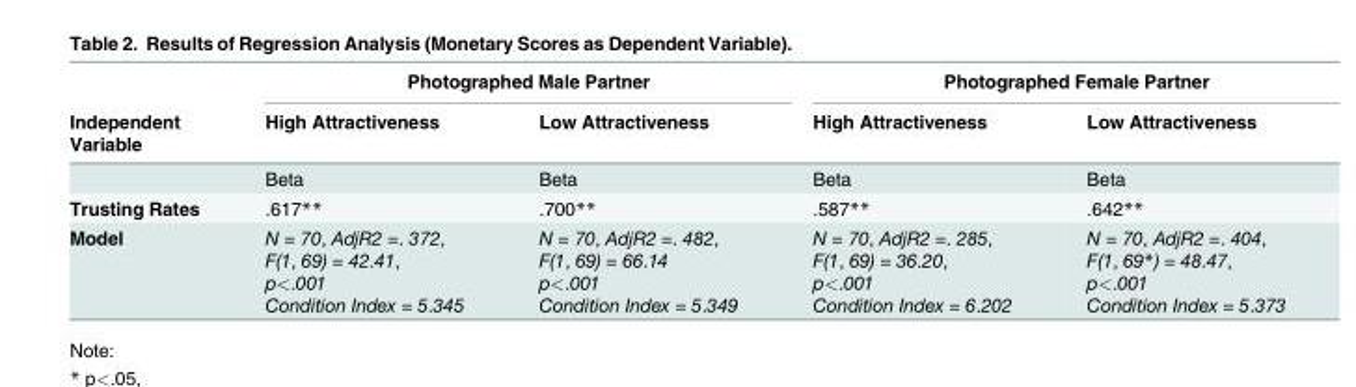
<table><thead><tr><td rowspan="2">Independent Variable</td><td colspan="2">Photographed Male Partner</td><td colspan="2">Photographed Female Partner</td></tr><tr><td>High Attractiveness</td><td>Low Attractiveness</td><td>High Attractiveness</td><td>Low Attractiveness</td></tr></thead><tbody><tr><td></td><td>Beta</td><td>Beta</td><td>Beta</td><td>Beta</td></tr><tr><td>Trusting Rates</td><td>.617**</td><td>.700**</td><td>.587**</td><td>.642**</td></tr><tr><td>Model</td><td>N = 70, AdjR2 =. 372, F(1, 69) = 42.41, p&lt;.001 Condition Index = 5.345</td><td>N = 70, AdjR2 =. 482, F(1, 69) = 66.14 p&lt;.001 Condition Index = 5.349</td><td>N = 70, AdjR2 =. 285, F(1, 69) = 36.20, p&lt;.001 Condition Index = 6.202</td><td>N = 70, AdjR2 =. 404, F(1, 69*) = 48.47, p&lt;.001 Condition Index = 5.373</td></tr></tbody></table>